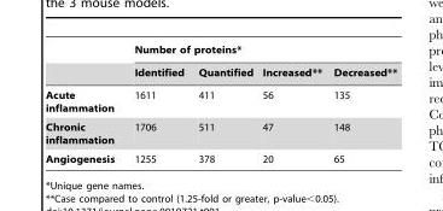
<table><thead><tr><td rowspan="2"></td><td colspan="4">Number of proteins*</td></tr><tr><td>Identified</td><td>Quantified</td><td>Increased**</td><td>Decreased**</td></tr></thead><tbody><tr><td>Acute inflammation</td><td>1611</td><td>411</td><td>56</td><td>135</td></tr><tr><td>Chronic inflammation</td><td>1706</td><td>511</td><td>47</td><td>148</td></tr><tr><td>Angiogenesis</td><td>1255</td><td>378</td><td>20</td><td>65</td></tr></tbody></table>